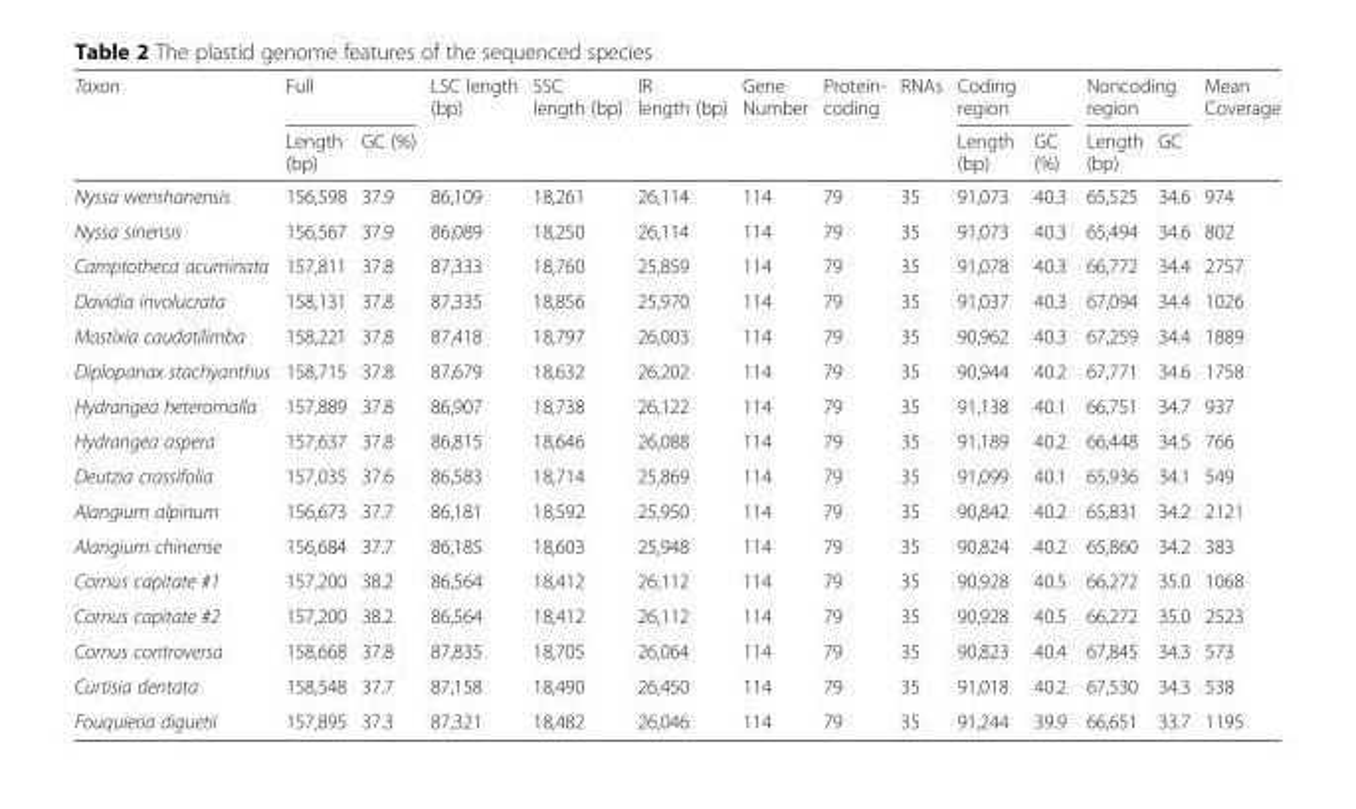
<table><thead><tr><td rowspan="2">Taxon</td><td colspan="2">Full</td><td rowspan="2">LSC length (bp)</td><td rowspan="2">SSC length (bp)</td><td rowspan="2">IR length (bp)</td><td rowspan="2">Gene Number</td><td rowspan="2">Protein- coding</td><td rowspan="2">RNAs</td><td colspan="2">Coding region</td><td colspan="2">Noncoding region</td><td rowspan="2">Mean Coverage</td></tr><tr><td>Length (bp)</td><td>GC (%)</td><td>Length (bp)</td><td>GC (%)</td><td>Length (bp)</td><td>GC</td></tr></thead><tbody><tr><td>Nyssa wenshanensis</td><td>156,598</td><td>37.9</td><td>86,109</td><td>18,261</td><td>26,114</td><td>114</td><td>79</td><td>35</td><td>91,073</td><td>40.3</td><td>65,525</td><td>34.6</td><td>974</td></tr><tr><td>Nyssa sinensis</td><td>156,567</td><td>37.9</td><td>86,089</td><td>18,250</td><td>26,114</td><td>114</td><td>79</td><td>35</td><td>91,073</td><td>40.3</td><td>65,494</td><td>34.6</td><td>802</td></tr><tr><td>Camptotheca acuminata</td><td>157,811</td><td>37.8</td><td>87,333</td><td>18,760</td><td>25,859</td><td>114</td><td>79</td><td>35</td><td>91,078</td><td>40.3</td><td>66,772</td><td>34.4</td><td>2757</td></tr><tr><td>Davidia involucrata</td><td>158,131</td><td>37.8</td><td>87,335</td><td>18,856</td><td>25,970</td><td>114</td><td>79</td><td>35</td><td>91,037</td><td>40.3</td><td>67,094</td><td>34.4</td><td>1026</td></tr><tr><td>Mastixia caudatilimba</td><td>158,221</td><td>37.8</td><td>87,418</td><td>18,797</td><td>26,003</td><td>114</td><td>79</td><td>35</td><td>90,962</td><td>40.3</td><td>67,259</td><td>34.4</td><td>1889</td></tr><tr><td>Diplopanax stachyanthus</td><td>158,715</td><td>37.8</td><td>87,679</td><td>18,632</td><td>26,202</td><td>114</td><td>79</td><td>35</td><td>90,944</td><td>40.2</td><td>67,771</td><td>34.6</td><td>1758</td></tr><tr><td>Hydrangea heteromalla</td><td>157,889</td><td>37.8</td><td>86,907</td><td>18,738</td><td>26,122</td><td>114</td><td>79</td><td>35</td><td>91,138</td><td>40.1</td><td>66,751</td><td>34.7</td><td>937</td></tr><tr><td>Hydrangea aspera</td><td>157,637</td><td>37.8</td><td>86,815</td><td>18,646</td><td>26,088</td><td>114</td><td>79</td><td>35</td><td>91,189</td><td>40.2</td><td>66,448</td><td>34.5</td><td>766</td></tr><tr><td>Deutzia crassifolia</td><td>157,035</td><td>37.6</td><td>86,583</td><td>18,714</td><td>25,869</td><td>114</td><td>79</td><td>35</td><td>91,099</td><td>40.1</td><td>65,936</td><td>34.1</td><td>549</td></tr><tr><td>Alangium alpinum</td><td>156,673</td><td>37.7</td><td>86,181</td><td>18,592</td><td>25,950</td><td>114</td><td>79</td><td>35</td><td>90,842</td><td>40.2</td><td>65,831</td><td>34.2</td><td>2121</td></tr><tr><td>Alangium chinense</td><td>156,684</td><td>37.7</td><td>86,185</td><td>18,603</td><td>25,948</td><td>114</td><td>79</td><td>35</td><td>90,824</td><td>40.2</td><td>65,860</td><td>34.2</td><td>383</td></tr><tr><td>Cornus capitate #1</td><td>157,200</td><td>38.2</td><td>86,564</td><td>18,412</td><td>26,112</td><td>114</td><td>79</td><td>35</td><td>90,928</td><td>40.5</td><td>66,272</td><td>35.0</td><td>1068</td></tr><tr><td>Cornus capitate #2</td><td>157,200</td><td>38.2</td><td>86,564</td><td>18,412</td><td>26,112</td><td>114</td><td>79</td><td>35</td><td>90,928</td><td>40.5</td><td>66,272</td><td>35.0</td><td>2523</td></tr><tr><td>Cornus controversa</td><td>158,668</td><td>37.8</td><td>87,835</td><td>18,705</td><td>26,064</td><td>114</td><td>79</td><td>35</td><td>90,823</td><td>40.4</td><td>67,845</td><td>34.3</td><td>573</td></tr><tr><td>Curtisia dentata</td><td>158,548</td><td>37.7</td><td>87,158</td><td>18,490</td><td>26,450</td><td>114</td><td>79</td><td>35</td><td>91,018</td><td>40.2</td><td>67,530</td><td>34.3</td><td>538</td></tr><tr><td>Fouquieria diguetii</td><td>157,895</td><td>37.3</td><td>87,321</td><td>18,482</td><td>26,046</td><td>114</td><td>79</td><td>35</td><td>91,244</td><td>39.9</td><td>66,651</td><td>33.7</td><td>1195</td></tr></tbody></table>